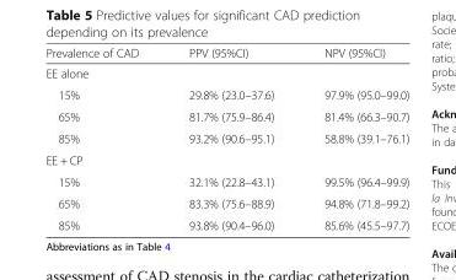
<table><thead><tr><td>Prevalence of CAD</td><td>PPV (95%CI)</td><td>NPV (95%CI)</td></tr></thead><tbody><tr><td colspan="3">EE alone</td></tr><tr><td>15%</td><td>29.8% (23.0–37.6)</td><td>97.9% (95.0–99.0)</td></tr><tr><td>65%</td><td>81.7% (75.9–86.4)</td><td>81.4% (66.3–90.7)</td></tr><tr><td>85%</td><td>93.2% (90.6–95.1)</td><td>58.8% (39.1–76.1)</td></tr><tr><td colspan="3">EE + CP</td></tr><tr><td>15%</td><td>32.1% (22.8–43.1)</td><td>99.5% (96.4–99.9)</td></tr><tr><td>65%</td><td>83.3% (75.6–88.9)</td><td>94.8% (71.8–99.2)</td></tr><tr><td>85%</td><td>93.8% (90.4–96.0)</td><td>85.6% (45.5–97.7)</td></tr></tbody></table>